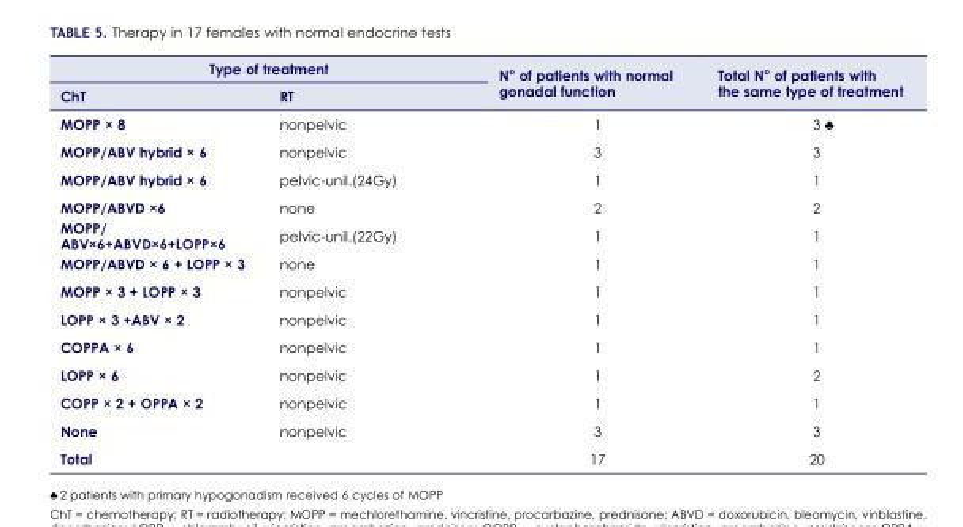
<table><thead><tr><td colspan="2">Type of treatment</td><td rowspan="2">N° of patients with normal gonadal function</td><td rowspan="2">Total N° of patients with the same type of treatment</td></tr><tr><td>ChT</td><td>RT</td></tr></thead><tbody><tr><td>MOPP × 8</td><td>nonpelvic</td><td>1</td><td>3 ♣</td></tr><tr><td>MOPP/ABV hybrid × 6</td><td>nonpelvic</td><td>3</td><td>3</td></tr><tr><td>MOPP/ABV hybrid × 6</td><td>pelvic-unil.(24Gy)</td><td>1</td><td>1</td></tr><tr><td>MOPP/ABVD ×6</td><td>none</td><td>2</td><td>2</td></tr><tr><td>MOPP/ ABV×6+ABVD×6+LOPP×6</td><td>pelvic-unil.(22Gy)</td><td>1</td><td>1</td></tr><tr><td>MOPP/ABVD × 6 + LOPP × 3</td><td>none</td><td>1</td><td>1</td></tr><tr><td>MOPP × 3 + LOPP × 3</td><td>nonpelvic</td><td>1</td><td>1</td></tr><tr><td>LOPP × 3 +ABV × 2</td><td>nonpelvic</td><td>1</td><td>1</td></tr><tr><td>COPPA × 6</td><td>nonpelvic</td><td>1</td><td>1</td></tr><tr><td>LOPP × 6</td><td>nonpelvic</td><td>1</td><td>2</td></tr><tr><td>COPP × 2 + OPPA × 2</td><td>nonpelvic</td><td>1</td><td>1</td></tr><tr><td>None</td><td>nonpelvic</td><td>3</td><td>3</td></tr><tr><td>Total</td><td></td><td>17</td><td>20</td></tr></tbody></table>